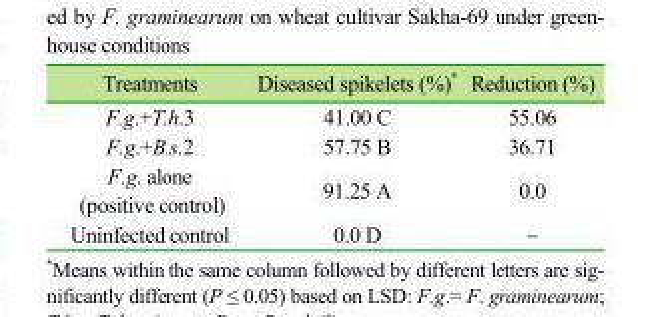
<table><thead><tr><td>Treatments</td><td>Diseased spikelets (%)*</td><td>Reduction (%)</td></tr></thead><tbody><tr><td>F.g.+T.h.3</td><td>41.00 C</td><td>55.06</td></tr><tr><td>F.g.+B.s.2</td><td>57.75 B</td><td>36.71</td></tr><tr><td>F.g. alone (positive control)</td><td>91.25 A</td><td>0.0</td></tr><tr><td>Uninfected control</td><td>0.0 D</td><td>-</td></tr></tbody></table>